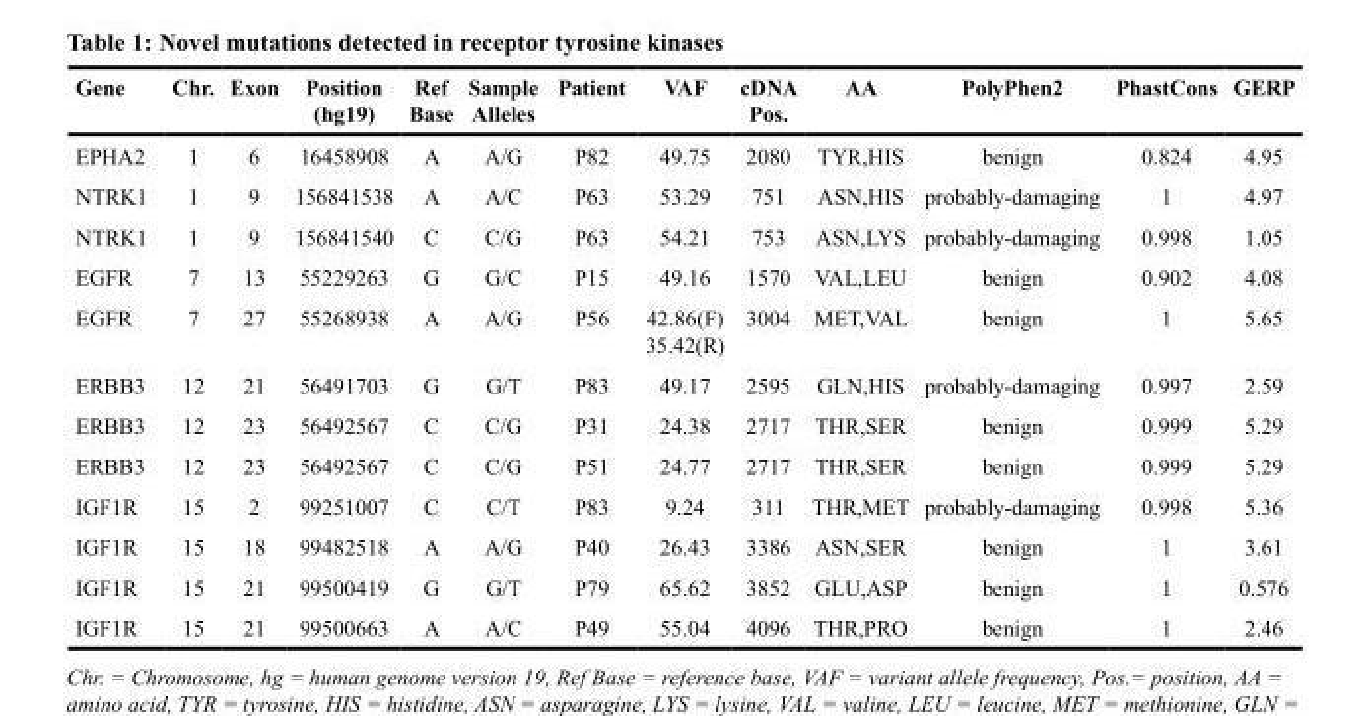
<table><thead><tr><td>Gene</td><td>Chr.</td><td>Exon</td><td>Position (hg19)</td><td>Ref Base</td><td>Sample Alleles</td><td>Patient</td><td>VAF</td><td>cDNA Pos.</td><td>AA</td><td>PolyPhen2</td><td>PhastCons</td><td>GERP</td></tr></thead><tbody><tr><td>EPHA2</td><td>1</td><td>6</td><td>16458908</td><td>A</td><td>A/G</td><td>P82</td><td>49.75</td><td>2080</td><td>TYR,HIS</td><td>benign</td><td>0.824</td><td>4.95</td></tr><tr><td>NTRK1</td><td>1</td><td>9</td><td>156841538</td><td>A</td><td>A/C</td><td>P63</td><td>53.29</td><td>751</td><td>ASN,HIS</td><td>probably-damaging</td><td>1</td><td>4.97</td></tr><tr><td>NTRK1</td><td>1</td><td>9</td><td>156841540</td><td>C</td><td>C/G</td><td>P63</td><td>54.21</td><td>753</td><td>ASN,LYS</td><td>probably-damaging</td><td>0.998</td><td>1.05</td></tr><tr><td>EGFR</td><td>7</td><td>13</td><td>55229263</td><td>G</td><td>G/C</td><td>P15</td><td>49.16</td><td>1570</td><td>VAL,LEU</td><td>benign</td><td>0.902</td><td>4.08</td></tr><tr><td>EGFR</td><td>7</td><td>27</td><td>55268938</td><td>A</td><td>A/G</td><td>P56</td><td>42.86(F) 35.42(R)</td><td>3004</td><td>MET,VAL</td><td>benign</td><td>1</td><td>5.65</td></tr><tr><td>ERBB3</td><td>12</td><td>21</td><td>56491703</td><td>G</td><td>G/T</td><td>P83</td><td>49.17</td><td>2595</td><td>GLN,HIS</td><td>probably-damaging</td><td>0.997</td><td>2.59</td></tr><tr><td>ERBB3</td><td>12</td><td>23</td><td>56492567</td><td>C</td><td>C/G</td><td>P31</td><td>24.38</td><td>2717</td><td>THR,SER</td><td>benign</td><td>0.999</td><td>5.29</td></tr><tr><td>ERBB3</td><td>12</td><td>23</td><td>56492567</td><td>C</td><td>C/G</td><td>P51</td><td>24.77</td><td>2717</td><td>THR,SER</td><td>benign</td><td>0.999</td><td>5.29</td></tr><tr><td>IGF1R</td><td>15</td><td>2</td><td>99251007</td><td>C</td><td>C/T</td><td>P83</td><td>9.24</td><td>311</td><td>THR,MET</td><td>probably-damaging</td><td>0.998</td><td>5.36</td></tr><tr><td>IGF1R</td><td>15</td><td>18</td><td>99482518</td><td>A</td><td>A/G</td><td>P40</td><td>26.43</td><td>3386</td><td>ASN,SER</td><td>benign</td><td>1</td><td>3.61</td></tr><tr><td>IGF1R</td><td>15</td><td>21</td><td>99500419</td><td>G</td><td>G/T</td><td>P79</td><td>65.62</td><td>3852</td><td>GLU,ASP</td><td>benign</td><td>1</td><td>0.576</td></tr><tr><td>IGF1R</td><td>15</td><td>21</td><td>99500663</td><td>A</td><td>A/C</td><td>P49</td><td>55.04</td><td>4096</td><td>THR,PRO</td><td>benign</td><td>1</td><td>2.46</td></tr></tbody></table>